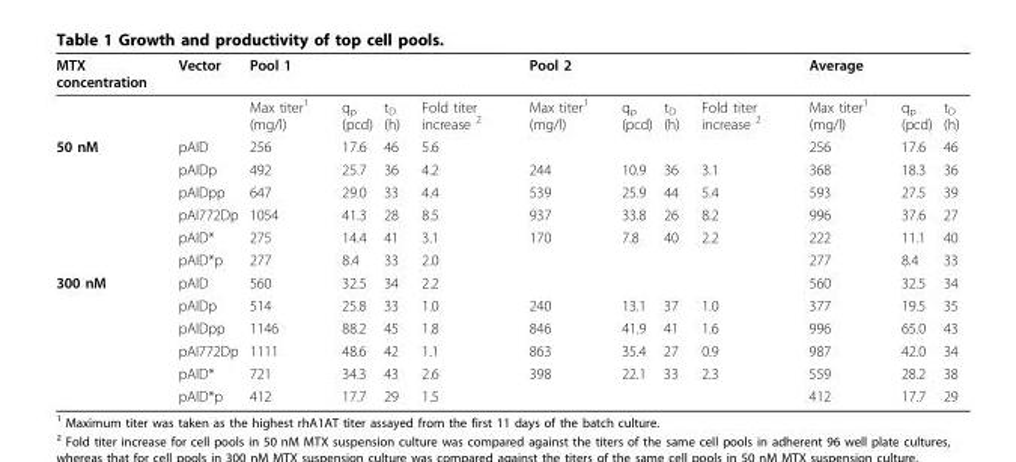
<table><thead><tr><td rowspan="2">MTX concentration</td><td rowspan="2">Vector</td><td colspan="4">Pool 1</td><td colspan="4">Pool 2</td><td colspan="3">Average</td></tr><tr><td>Max titer<sup>1</sup> (mg/l)</td><td>q<sub>p</sub> (pcd)</td><td>t<sub>D</sub> (h)</td><td>Fold titer increase <sup>2</sup></td><td>Max titer<sup>1</sup> (mg/l)</td><td>q<sub>p</sub> (pcd)</td><td>t<sub>D</sub> (h)</td><td>Fold titer increase <sup>2</sup></td><td>Max titer<sup>1</sup> (mg/l)</td><td>q<sub>p</sub> (pcd)</td><td>t<sub>D</sub> (h)</td></tr></thead><tbody><tr><td rowspan="6">50 nM</td><td>pAID</td><td>256</td><td>17.6</td><td>46</td><td>5.6</td><td></td><td></td><td></td><td></td><td>256</td><td>17.6</td><td>46</td></tr><tr><td>pAIDp</td><td>492</td><td>25.7</td><td>36</td><td>4.2</td><td>244</td><td>10.9</td><td>36</td><td>3.1</td><td>368</td><td>18.3</td><td>36</td></tr><tr><td>pAIDpp</td><td>647</td><td>29.0</td><td>33</td><td>4.4</td><td>539</td><td>25.9</td><td>44</td><td>5.4</td><td>593</td><td>27.5</td><td>39</td></tr><tr><td>pAI772Dp</td><td>1054</td><td>41.3</td><td>28</td><td>8.5</td><td>937</td><td>33.8</td><td>26</td><td>8.2</td><td>996</td><td>37.6</td><td>27</td></tr><tr><td>pAID*</td><td>275</td><td>14.4</td><td>41</td><td>3.1</td><td>170</td><td>7.8</td><td>40</td><td>2.2</td><td>222</td><td>11.1</td><td>40</td></tr><tr><td>pAID*p</td><td>277</td><td>8.4</td><td>33</td><td>2.0</td><td></td><td></td><td></td><td></td><td>277</td><td>8.4</td><td>33</td></tr><tr><td rowspan="6">300 nM</td><td>pAID</td><td>560</td><td>32.5</td><td>34</td><td>2.2</td><td></td><td></td><td></td><td></td><td>560</td><td>32.5</td><td>34</td></tr><tr><td>pAIDp</td><td>514</td><td>25.8</td><td>33</td><td>1.0</td><td>240</td><td>13.1</td><td>37</td><td>1.0</td><td>377</td><td>19.5</td><td>35</td></tr><tr><td>pAIDpp</td><td>1146</td><td>88.2</td><td>45</td><td>1.8</td><td>846</td><td>41.9</td><td>41</td><td>1.6</td><td>996</td><td>65.0</td><td>43</td></tr><tr><td>pAI772Dp</td><td>1111</td><td>48.6</td><td>42</td><td>1.1</td><td>863</td><td>35.4</td><td>27</td><td>0.9</td><td>987</td><td>42.0</td><td>34</td></tr><tr><td>pAID*</td><td>721</td><td>34.3</td><td>43</td><td>2.6</td><td>398</td><td>22.1</td><td>33</td><td>2.3</td><td>559</td><td>28.2</td><td>38</td></tr><tr><td>pAID*p</td><td>412</td><td>17.7</td><td>29</td><td>1.5</td><td></td><td></td><td></td><td></td><td>412</td><td>17.7</td><td>29</td></tr></tbody></table>